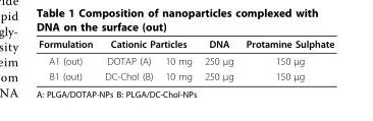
<table><thead><tr><td rowspan="2">Formulation A1 (out)</td><td colspan="2">Cationic Particles</td><td rowspan="2">DNA 250 μg</td><td rowspan="2">Protamine Sulphate 150 μg</td></tr><tr><td>DOTAP (A)</td><td>10 mg</td></tr></thead><tbody><tr><td>B1 (out)</td><td>DC-Chol (B)</td><td>10 mg</td><td>250 μg</td><td>150 μg</td></tr></tbody></table>